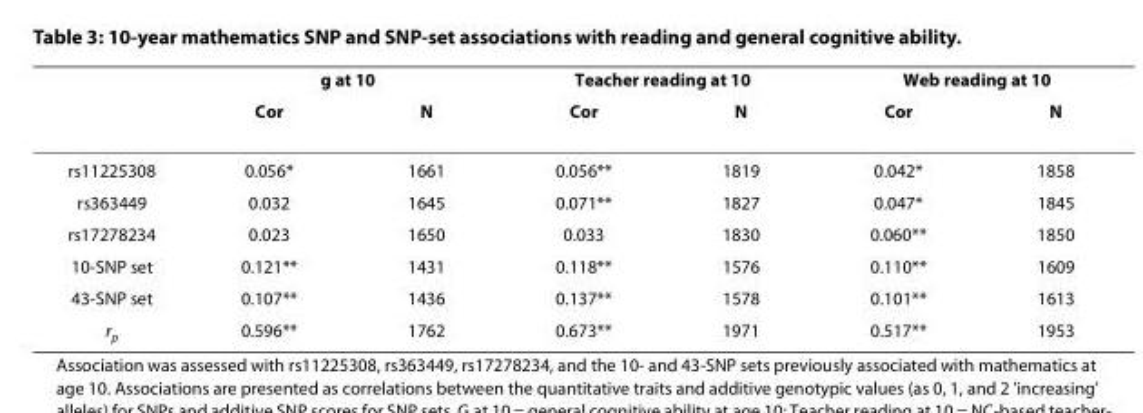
<table><thead><tr><td rowspan="2"></td><td colspan="2">g at 10</td><td colspan="2">Teacher reading at 10</td><td colspan="2">Web reading at 10</td></tr><tr><td>Cor</td><td>N</td><td>Cor</td><td>N</td><td>Cor</td><td>N</td></tr></thead><tbody><tr><td>rs11225308</td><td>0.056*</td><td>1661</td><td>0.056**</td><td>1819</td><td>0.042*</td><td>1858</td></tr><tr><td>rs363449</td><td>0.032</td><td>1645</td><td>0.071**</td><td>1827</td><td>0.047*</td><td>1845</td></tr><tr><td>rs17278234</td><td>0.023</td><td>1650</td><td>0.033</td><td>1830</td><td>0.060**</td><td>1850</td></tr><tr><td>10-SNP set</td><td>0.121**</td><td>1431</td><td>0.118**</td><td>1576</td><td>0.110**</td><td>1609</td></tr><tr><td>43-SNP set</td><td>0.107**</td><td>1436</td><td>0.137**</td><td>1578</td><td>0.101**</td><td>1613</td></tr><tr><td>r<sub>p</sub></td><td>0.596**</td><td>1762</td><td>0.673**</td><td>1971</td><td>0.517**</td><td>1953</td></tr></tbody></table>